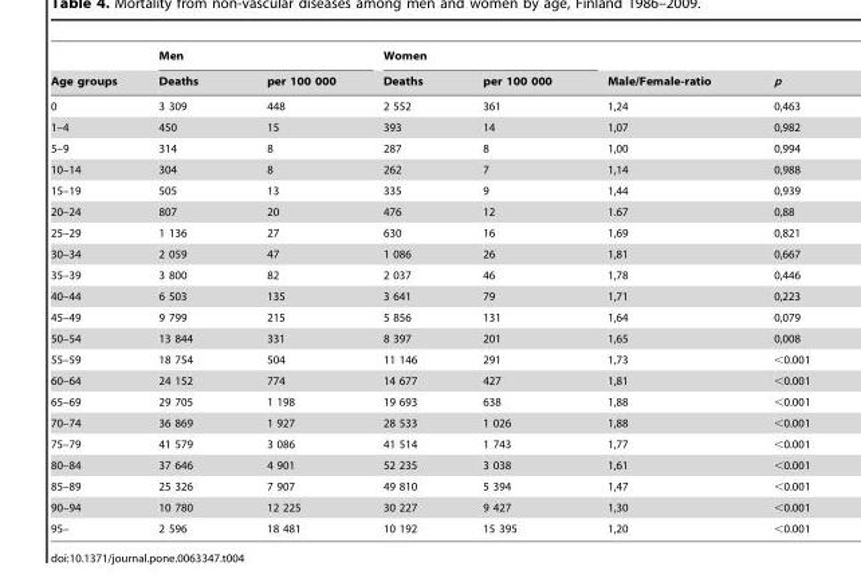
<table><thead><tr><td rowspan="2">Age groups</td><td colspan="2">Men</td><td colspan="2">Women</td><td rowspan="2">Male/Female-ratio</td><td rowspan="2">p</td></tr><tr><td>Deaths</td><td>per 100 000</td><td>Deaths</td><td>per 100 000</td></tr></thead><tbody><tr><td>0</td><td>3 309</td><td>448</td><td>2 552</td><td>361</td><td>1,24</td><td>0,463</td></tr><tr><td>1–4</td><td>450</td><td>15</td><td>393</td><td>14</td><td>1,07</td><td>0,982</td></tr><tr><td>5–9</td><td>314</td><td>8</td><td>287</td><td>8</td><td>1,00</td><td>0,994</td></tr><tr><td>10–14</td><td>304</td><td>8</td><td>262</td><td>7</td><td>1,14</td><td>0,988</td></tr><tr><td>15–19</td><td>505</td><td>13</td><td>335</td><td>9</td><td>1,44</td><td>0,939</td></tr><tr><td>20–24</td><td>807</td><td>20</td><td>476</td><td>12</td><td>1.67</td><td>0,88</td></tr><tr><td>25–29</td><td>1 136</td><td>27</td><td>630</td><td>16</td><td>1,69</td><td>0,821</td></tr><tr><td>30–34</td><td>2 059</td><td>47</td><td>1 086</td><td>26</td><td>1,81</td><td>0,667</td></tr><tr><td>35–39</td><td>3 800</td><td>82</td><td>2 037</td><td>46</td><td>1,78</td><td>0,446</td></tr><tr><td>40–44</td><td>6 503</td><td>135</td><td>3 641</td><td>79</td><td>1,71</td><td>0,223</td></tr><tr><td>45–49</td><td>9 799</td><td>215</td><td>5 856</td><td>131</td><td>1,64</td><td>0,079</td></tr><tr><td>50–54</td><td>13 844</td><td>331</td><td>8 397</td><td>201</td><td>1,65</td><td>0,008</td></tr><tr><td>55–59</td><td>18 754</td><td>504</td><td>11 146</td><td>291</td><td>1,73</td><td>&lt;0.001</td></tr><tr><td>60–64</td><td>24 152</td><td>774</td><td>14 677</td><td>427</td><td>1,81</td><td>&lt;0.001</td></tr><tr><td>65–69</td><td>29 705</td><td>1 198</td><td>19 693</td><td>638</td><td>1,88</td><td>&lt;0.001</td></tr><tr><td>70–74</td><td>36 869</td><td>1 927</td><td>28 533</td><td>1 026</td><td>1,88</td><td>&lt;0.001</td></tr><tr><td>75–79</td><td>41 579</td><td>3 086</td><td>41 514</td><td>1 743</td><td>1,77</td><td>&lt;0.001</td></tr><tr><td>80–84</td><td>37 646</td><td>4 901</td><td>52 235</td><td>3 038</td><td>1,61</td><td>&lt;0.001</td></tr><tr><td>85–89</td><td>25 326</td><td>7 907</td><td>49 810</td><td>5 394</td><td>1,47</td><td>&lt;0.001</td></tr><tr><td>90–94</td><td>10 780</td><td>12 225</td><td>30 227</td><td>9 427</td><td>1,30</td><td>&lt;0.001</td></tr><tr><td>95–</td><td>2 596</td><td>18 481</td><td>10 192</td><td>15 395</td><td>1,20</td><td>&lt;0.001</td></tr></tbody></table>